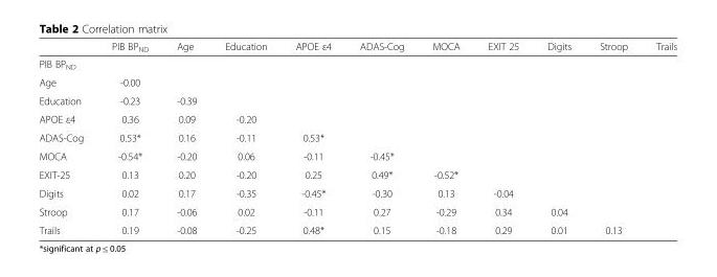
<table><thead><tr><td></td><td>PIB BP<sub>ND</sub></td><td>Age</td><td>Education</td><td>APOE ε4</td><td>ADAS-Cog</td><td>MOCA</td><td>EXIT 25</td><td>Digits</td><td>Stroop</td><td>Trails</td></tr></thead><tbody><tr><td colspan="11">PIB BP<sub>ND</sub></td></tr><tr><td>Age</td><td>-0.00</td><td></td><td></td><td></td><td></td><td></td><td></td><td></td><td></td><td></td></tr><tr><td>Education</td><td>-0.23</td><td>-0.39</td><td></td><td></td><td></td><td></td><td></td><td></td><td></td><td></td></tr><tr><td>APOE ε4</td><td>0.36</td><td>0.09</td><td>-0.20</td><td></td><td></td><td></td><td></td><td></td><td></td><td></td></tr><tr><td>ADAS-Cog</td><td>0.53*</td><td>0.16</td><td>-0.11</td><td>0.53*</td><td></td><td></td><td></td><td></td><td></td><td></td></tr><tr><td>MOCA</td><td>-0.54*</td><td>-0.20</td><td>0.06</td><td>-0.11</td><td>-0.45*</td><td></td><td></td><td></td><td></td><td></td></tr><tr><td>EXIT-25</td><td>0.13</td><td>0.20</td><td>-0.20</td><td>0.25</td><td>0.49*</td><td>-0.52*</td><td></td><td></td><td></td><td></td></tr><tr><td>Digits</td><td>0.02</td><td>0.17</td><td>-0.35</td><td>-0.45*</td><td>-0.30</td><td>0.13</td><td>-0.04</td><td></td><td></td><td></td></tr><tr><td>Stroop</td><td>0.17</td><td>-0.06</td><td>0.02</td><td>-0.11</td><td>0.27</td><td>-0.29</td><td>0.34</td><td>0.04</td><td></td><td></td></tr><tr><td>Trails</td><td>0.19</td><td>-0.08</td><td>-0.25</td><td>0.48*</td><td>0.15</td><td>-0.18</td><td>0.29</td><td>0.01</td><td>0.13</td><td></td></tr></tbody></table>